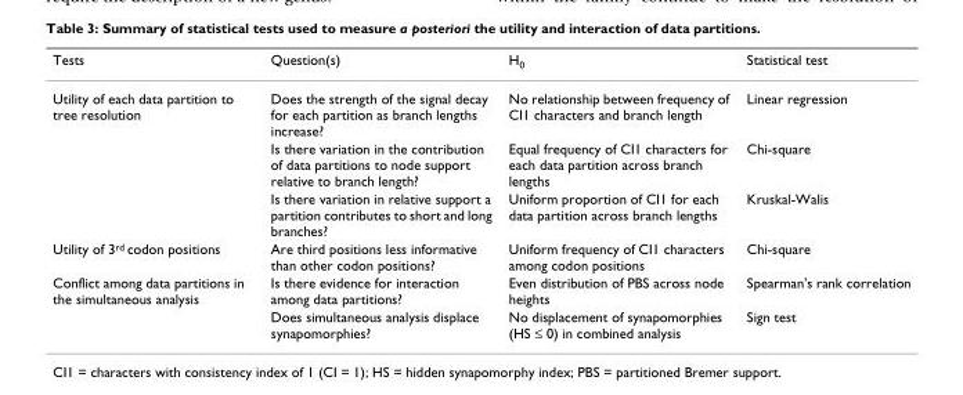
<table><thead><tr><td>Tests</td><td>Question(s)</td><td>H<sub>0</sub></td><td>Statistical test</td></tr></thead><tbody><tr><td rowspan="3">Utility of each data partition to tree resolution</td><td>Does the strength of the signal decay for each partition as branch lengths increase?</td><td>No relationship between frequency of CI1 characters and branch length</td><td>Linear regression</td></tr><tr><td>Is there variation in the contribution of data partitions to node support relative to branch length?</td><td>Equal frequency of CI1 characters for each data partition across branch lengths</td><td>Chi-square</td></tr><tr><td>Is there variation in relative support a partition contributes to short and long branches?</td><td>Uniform proportion of CI1 for each data partition across branch lengths</td><td>Kruskal-Walis</td></tr><tr><td>Utility of 3<sup>rd</sup> codon positions</td><td>Are third positions less informative than other codon positions?</td><td>Uniform frequency of CI1 characters among codon positions</td><td>Chi-square</td></tr><tr><td rowspan="2">Conflict among data partitions in the simultaneous analysis</td><td>Is there evidence for interaction among data partitions?</td><td>Even distribution of PBS across node heights</td><td>Spearman&#x27;s rank correlation</td></tr><tr><td>Does simultaneous analysis displace synapomorphies?</td><td>No displacement of synapomorphies (HS ≤ 0) in combined analysis</td><td>Sign test</td></tr></tbody></table>